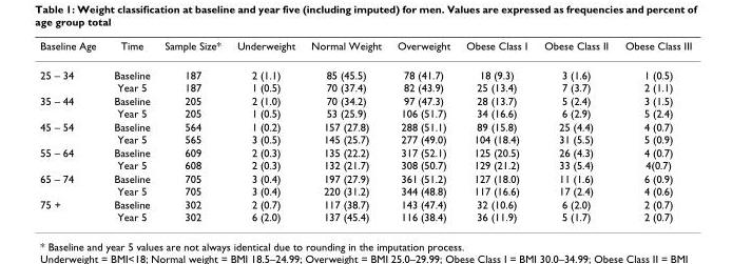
<table><thead><tr><td>Baseline Age</td><td>Time</td><td>Sample Size*</td><td>Underweight</td><td>Normal Weight</td><td>Overweight</td><td>Obese Class I</td><td>Obese Class II</td><td>Obese Class III</td></tr></thead><tbody><tr><td>25 – 34</td><td>Baseline Year 5</td><td>187 187</td><td>2 (1.1) 1 (0.5)</td><td>85 (45.5) 70 (37.4)</td><td>78 (41.7) 82 (43.9)</td><td>18 (9.3) 25 (13.4)</td><td>3 (1.6) 7 (3.7)</td><td>1 (0.5) 2 (1.1)</td></tr><tr><td>35 – 44</td><td>Baseline Year 5</td><td>205 205</td><td>2 (1.0) 1 (0.5)</td><td>70 (34.2) 53 (25.9)</td><td>97 (47.3) 106 (51.7)</td><td>28 (13.7) 34 (16.6)</td><td>5 (2.4) 6 (2.9)</td><td>3 (1.5) 5 (2.4)</td></tr><tr><td>45 – 54</td><td>Baseline Year 5</td><td>564 565</td><td>1 (0.2) 3 (0.5)</td><td>157 (27.8) 145 (25.7)</td><td>288 (51.1) 277 (49.0)</td><td>89 (15.8) 104 (18.4)</td><td>25 (4.4) 31 (5.5)</td><td>4 (0.7) 5 (0.9)</td></tr><tr><td>55 – 64</td><td>Baseline Year 5</td><td>609 608</td><td>2 (0.3) 2 (0.3)</td><td>135 (22.2) 132 (21.7)</td><td>317 (52.1) 308 (50.7)</td><td>125 (20.5) 129 (21.2)</td><td>26 (4.3) 33 (5.4)</td><td>4 (0.7) 4(0.7)</td></tr><tr><td>65 – 74</td><td>Baseline Year 5</td><td>705 705</td><td>3 (0.4) 3 (0.4)</td><td>197 (27.9) 220 (31.2)</td><td>361 (51.2) 344 (48.8)</td><td>127 (18.0) 117 (16.6)</td><td>11 (1.6) 17 (2.4)</td><td>6 (0.9) 4 (0.6)</td></tr><tr><td>75 +</td><td>Baseline Year 5</td><td>302 302</td><td>2 (0.7) 6 (2.0)</td><td>117 (38.7) 137 (45.4)</td><td>143 (47.4) 116 (38.4)</td><td>32 (10.6) 36 (11.9)</td><td>6 (2.0) 5 (1.7)</td><td>2 (0.7) 2 (0.7)</td></tr></tbody></table>